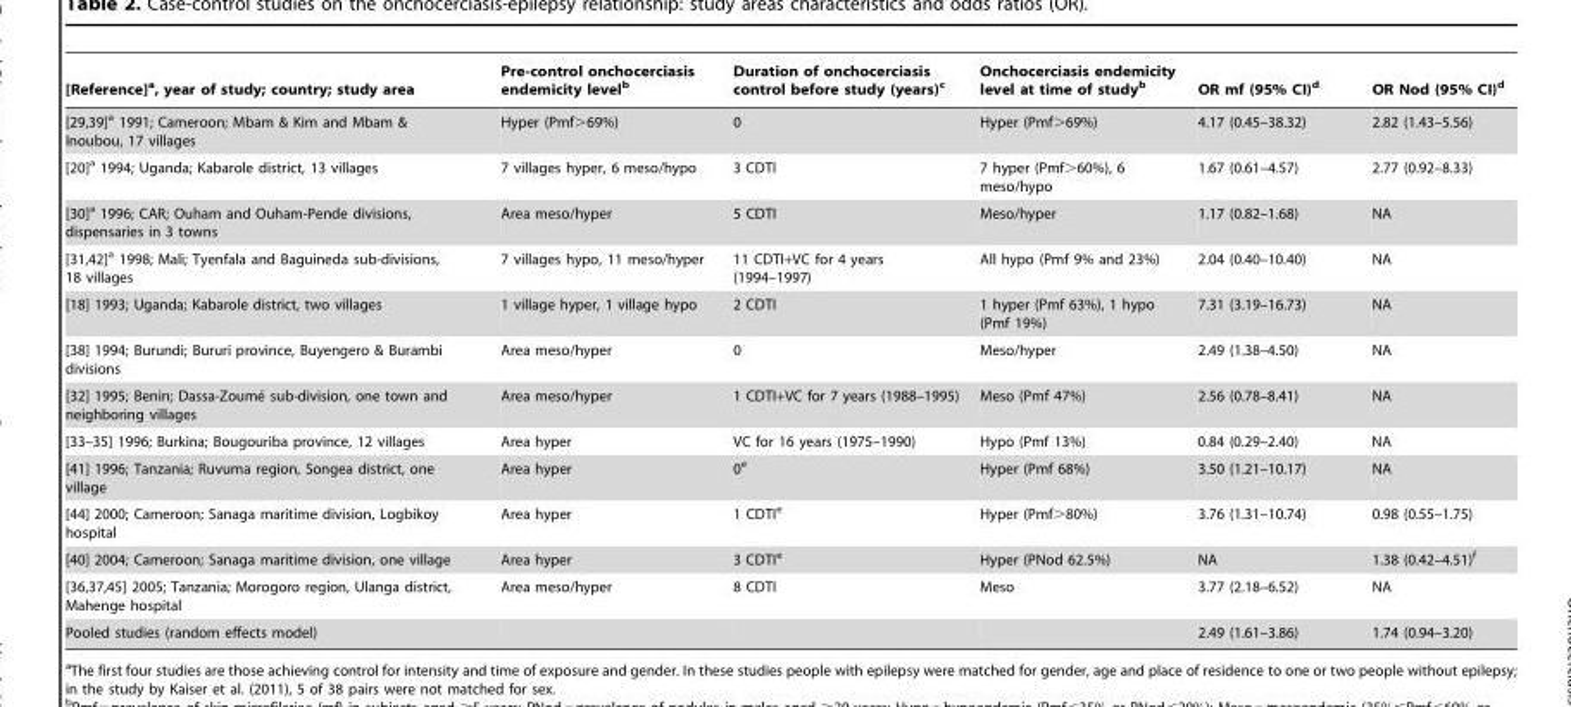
<table><thead><tr><td>[Reference]<sup>a</sup>, year of study; country; study area</td><td>Pre-control onchocerciasis endemicity level<sup>b</sup></td><td>Duration of onchocerciasis control before study (years)<sup>c</sup></td><td>Onchocerciasis endemicity level at time of study<sup>b</sup></td><td>OR mf (95% CI)<sup>d</sup></td><td>OR Nod (95% CI)<sup>d</sup></td></tr></thead><tbody><tr><td>[29,39]a 1991; Cameroon; Mbam &amp; Kim and Mbam &amp; Inoubou, 17 villages</td><td>Hyper (Pmf&gt;69%)</td><td>0</td><td>Hyper (Pmf&gt;69%)</td><td>4.17 (0.45–38.32)</td><td>2.82 (1.43–5.56)</td></tr><tr><td>[20]a 1994; Uganda; Kabarole district, 13 villages</td><td>7 villages hyper, 6 meso/hypo</td><td>3 CDTI</td><td>7 hyper (Pmf&gt;60%), 6 meso/hypo</td><td>1.67 (0.61–4.57)</td><td>2.77 (0.92–8.33)</td></tr><tr><td>[30]a 1996; CAR; Ouham and Ouham-Pende divisions, dispensaries in 3 towns</td><td>Area meso/hyper</td><td>5 CDTI</td><td>Meso/hyper</td><td>1.17 (0.82–1.68)</td><td>NA</td></tr><tr><td>[31,42]a 1998; Mali; Tyenfala and Baguineda sub-divisions, 18 villages</td><td>7 villages hypo, 11 meso/hyper</td><td>11 CDTI+VC for 4 years (1994–1997)</td><td>All hypo (Pmf 9% and 23%)</td><td>2.04 (0.40–10.40)</td><td>NA</td></tr><tr><td>[18] 1993; Uganda; Kabarole district, two villages</td><td>1 village hyper, 1 village hypo</td><td>2 CDTI</td><td>1 hyper (Pmf 63%), 1 hypo (Pmf 19%)</td><td>7.31 (3.19–16.73)</td><td>NA</td></tr><tr><td>[38] 1994; Burundi; Bururi province, Buyengero &amp; Burambi divisions</td><td>Area meso/hyper</td><td>0</td><td>Meso/hyper</td><td>2.49 (1.38–4.50)</td><td>NA</td></tr><tr><td>[32] 1995; Benin; Dassa-Zoume´ sub-division, one town and neighboring villages</td><td>Area meso/hyper</td><td>1 CDTI+VC for 7 years (1988–1995)</td><td>Meso (Pmf 47%)</td><td>2.56 (0.78–8.41)</td><td>NA</td></tr><tr><td>[33–35] 1996; Burkina; Bougouriba province, 12 villages</td><td>Area hyper</td><td>VC for 16 years (1975–1990)</td><td>Hypo (Pmf 13%)</td><td>0.84 (0.29–2.40)</td><td>NA</td></tr><tr><td>[41] 1996; Tanzania; Ruvuma region, Songea district, one village</td><td>Area hyper</td><td>0<sup>e</sup></td><td>Hyper (Pmf 68%)</td><td>3.50 (1.21–10.17)</td><td>NA</td></tr><tr><td>[44] 2000; Cameroon; Sanaga maritime division, Logbikoy hospital</td><td>Area hyper</td><td>1 CDTI<sup>e</sup></td><td>Hyper (Pmf&gt;80%)</td><td>3.76 (1.31–10.74)</td><td>0.98 (0.55–1.75)</td></tr><tr><td>[40] 2004; Cameroon; Sanaga maritime division, one village</td><td>Area hyper</td><td>3 CDTI<sup>e</sup></td><td>Hyper (PNod 62.5%)</td><td>NA</td><td>1.38 (0.42–4.51)<sup>f</sup></td></tr><tr><td>[36,37,45] 2005; Tanzania; Morogoro region, Ulanga district, Mahenge hospital</td><td>Area meso/hyper</td><td>8 CDTI</td><td>Meso</td><td>3.77 (2.18–6.52)</td><td>NA</td></tr><tr><td>Pooled studies (random effects model)</td><td></td><td></td><td></td><td>2.49 (1.61–3.86)</td><td>1.74 (0.94–3.20)</td></tr></tbody></table>